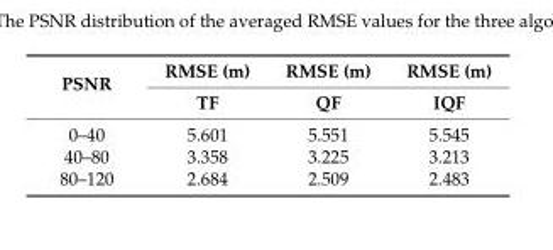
<table><thead><tr><td rowspan="2">PSNR</td><td rowspan="2">RMSE (m) TF</td><td rowspan="2">RMSE (m) QF</td><td rowspan="2">RMSE (m) IQF</td></tr><tr></tr></thead><tbody><tr><td>0–40</td><td>5.601</td><td>5.551</td><td>5.545</td></tr><tr><td>40–80</td><td>3.358</td><td>3.225</td><td>3.213</td></tr><tr><td>80–120</td><td>2.684</td><td>2.509</td><td>2.483</td></tr></tbody></table>